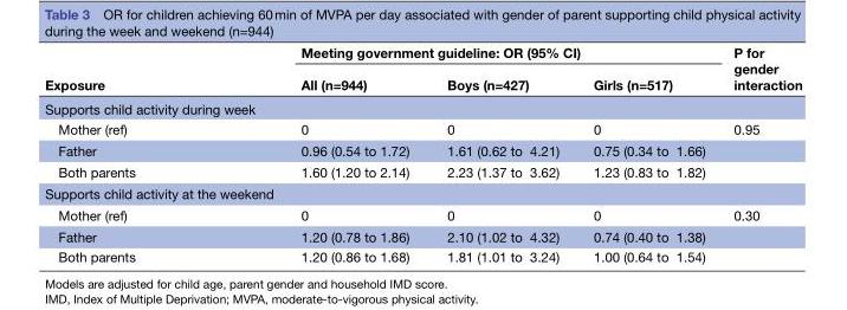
<table><thead><tr><td rowspan="2">Exposure</td><td colspan="3">Meeting government guideline: OR (95% CI)</td><td rowspan="2">P for gender interaction</td></tr><tr><td>All (n=944)</td><td>Boys (n=427)</td><td>Girls (n=517)</td></tr></thead><tbody><tr><td colspan="5">Supports child activity during week</td></tr><tr><td>Mother (ref)</td><td>0</td><td>0</td><td>0</td><td>0.95</td></tr><tr><td>Father</td><td>0.96 (0.54 to 1.72)</td><td>1.61 (0.62 to 4.21)</td><td>0.75 (0.34 to 1.66)</td><td></td></tr><tr><td>Both parents</td><td>1.60 (1.20 to 2.14)</td><td>2.23 (1.37 to 3.62)</td><td>1.23 (0.83 to 1.82)</td><td></td></tr><tr><td colspan="5">Supports child activity at the weekend</td></tr><tr><td>Mother (ref)</td><td>0</td><td>0</td><td>0</td><td>0.30</td></tr><tr><td>Father</td><td>1.20 (0.78 to 1.86)</td><td>2.10 (1.02 to 4.32)</td><td>0.74 (0.40 to 1.38)</td><td></td></tr><tr><td>Both parents</td><td>1.20 (0.86 to 1.68)</td><td>1.81 (1.01 to 3.24)</td><td>1.00 (0.64 to 1.54)</td><td></td></tr></tbody></table>